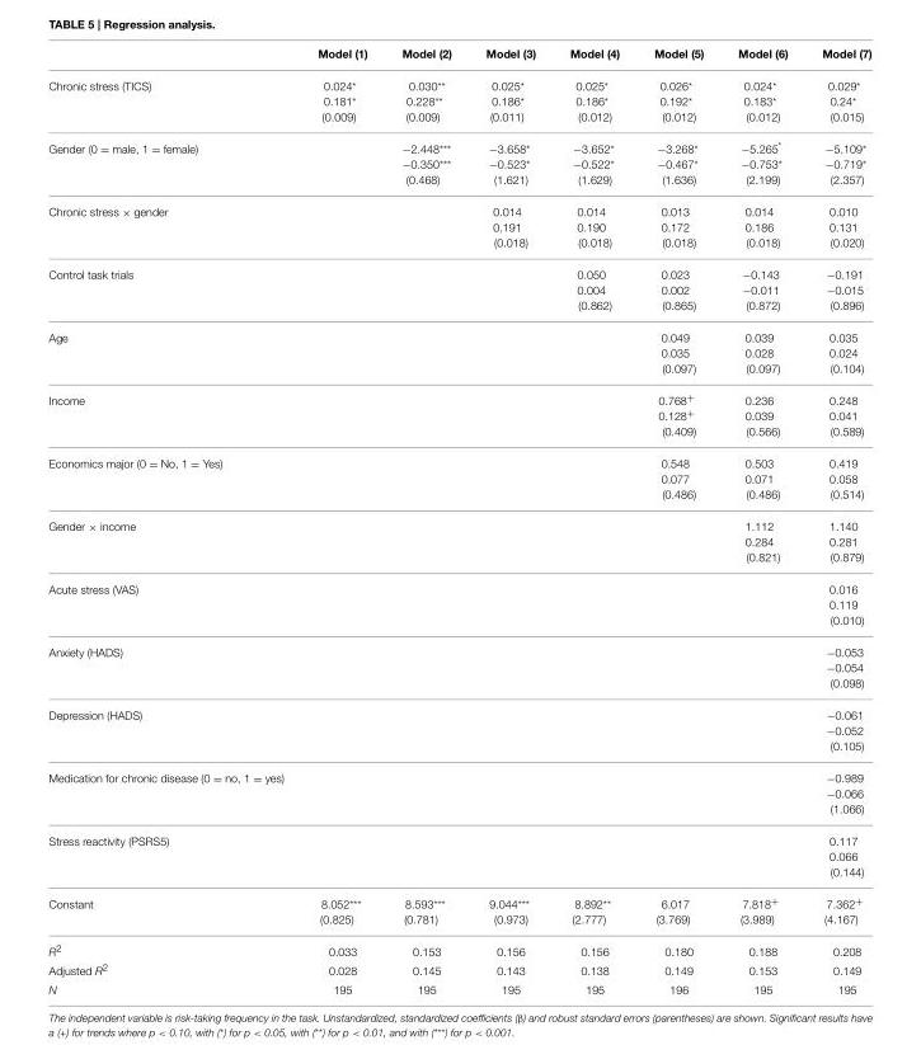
<table><thead><tr><td></td><td>Model (1)</td><td>Model (2)</td><td>Model (3)</td><td>Model (4)</td><td>Model (5)</td><td>Model (6)</td><td>Model (7)</td></tr></thead><tbody><tr><td>Chronic stress (TICS)</td><td>0.024* 0.181* (0.009)</td><td>0.030** 0.228** (0.009)</td><td>0.025* 0.186* (0.011)</td><td>0.025* 0.186* (0.012)</td><td>0.026* 0.192* (0.012)</td><td>0.024* 0.183* (0.012)</td><td>0.029* 0.24* (0.015)</td></tr><tr><td>Gender (0 = male, 1 = female)</td><td></td><td>−2.448*** −0.350*** (0.468)</td><td>−3.658* −0.523* (1.621)</td><td>−3.652* −0.522* (1.629)</td><td>−3.268* −0.467* (1.636)</td><td>−5.265* −0.753* (2.199)</td><td>−5.109* −0.719* (2.357)</td></tr><tr><td>Chronic stress × gender</td><td></td><td></td><td>0.014 0.191 (0.018)</td><td>0.014 0.190 (0.018)</td><td>0.013 0.172 (0.018)</td><td>0.014 0.186 (0.018)</td><td>0.010 0.131 (0.020)</td></tr><tr><td>Control task trials</td><td></td><td></td><td></td><td>0.050 0.004 (0.862)</td><td>0.023 0.002 (0.865)</td><td>−0.143 −0.011 (0.872)</td><td>−0.191 −0.015 (0.896)</td></tr><tr><td>Age</td><td></td><td></td><td></td><td></td><td>0.049 0.035 (0.097)</td><td>0.039 0.028 (0.097)</td><td>0.035 0.024 (0.104)</td></tr><tr><td>Income</td><td></td><td></td><td></td><td></td><td>0.768<sup>+</sup> 0.128<sup>+</sup> (0.409)</td><td>0.236 0.039 (0.566)</td><td>0.248 0.041 (0.589)</td></tr><tr><td>Economics major (0 = No, 1 = Yes)</td><td></td><td></td><td></td><td></td><td>0.548 0.077 (0.486)</td><td>0.503 0.071 (0.486)</td><td>0.419 0.058 (0.514)</td></tr><tr><td>Gender × income</td><td></td><td></td><td></td><td></td><td></td><td>1.112 0.284 (0.821)</td><td>1.140 0.281 (0.879)</td></tr><tr><td>Acute stress (VAS)</td><td></td><td></td><td></td><td></td><td></td><td></td><td>0.016 0.119 (0.010)</td></tr><tr><td>Anxiety (HADS)</td><td></td><td></td><td></td><td></td><td></td><td></td><td>−0.053 −0.054 (0.098)</td></tr><tr><td>Depression (HADS)</td><td></td><td></td><td></td><td></td><td></td><td></td><td>−0.061 −0.052 (0.105)</td></tr><tr><td>Medication for chronic disease (0 = no, 1 = yes)</td><td></td><td></td><td></td><td></td><td></td><td></td><td>−0.989 −0.066 (1.066)</td></tr><tr><td>Stress reactivity (PSRS5)</td><td></td><td></td><td></td><td></td><td></td><td></td><td>0.117 0.066 (0.144)</td></tr><tr><td>Constant</td><td>8.052*** (0.825)</td><td>8.593*** (0.781)</td><td>9.044*** (0.973)</td><td>8.892** (2.777)</td><td>6.017 (3.769)</td><td>7.818<sup>+</sup> (3.989)</td><td>7.362<sup>+</sup> (4.167)</td></tr><tr><td>R<sup>2</sup></td><td>0.033</td><td>0.153</td><td>0.156</td><td>0.156</td><td>0.180</td><td>0.188</td><td>0.208</td></tr><tr><td>Adjusted R<sup>2</sup></td><td>0.028</td><td>0.145</td><td>0.143</td><td>0.138</td><td>0.149</td><td>0.153</td><td>0.149</td></tr><tr><td>N</td><td>195</td><td>195</td><td>195</td><td>195</td><td>196</td><td>195</td><td>195</td></tr></tbody></table>